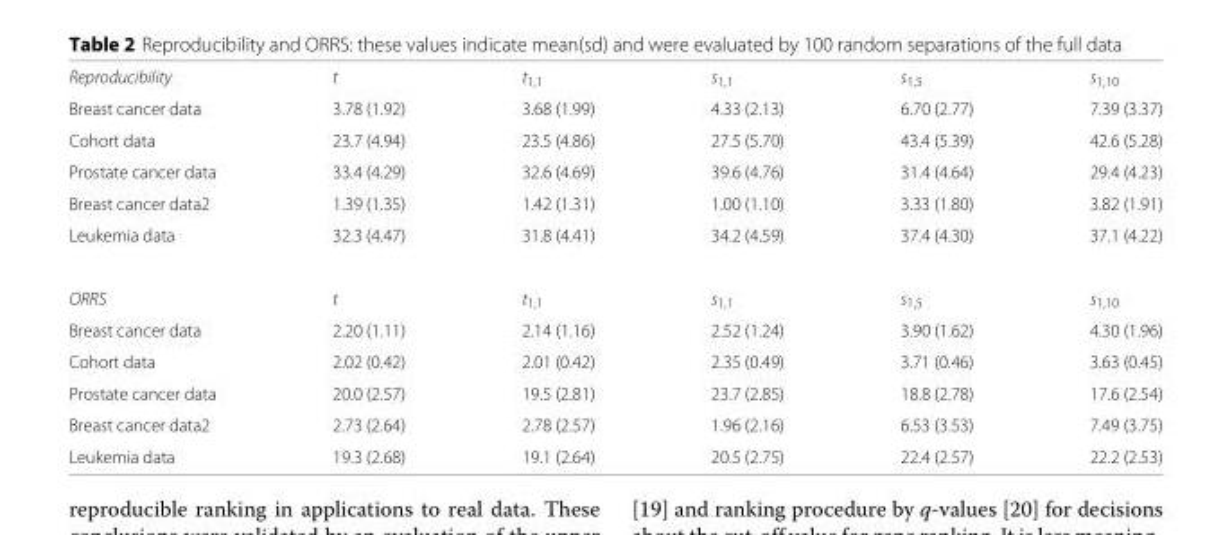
<table><tbody><tr><td>Reproducibility</td><td>t</td><td>t<sub>1,1</sub></td><td>s<sub>1,1</sub></td><td>s<sub>1,5</sub></td><td>s<sub>1,10</sub></td></tr><tr><td>Breast cancer data</td><td>3.78 (1.92)</td><td>3.68 (1.99)</td><td>4.33 (2.13)</td><td>6.70 (2.77)</td><td>7.39 (3.37)</td></tr><tr><td>Cohort data</td><td>23.7 (4.94)</td><td>23.5 (4.86)</td><td>27.5 (5.70)</td><td>43.4 (5.39)</td><td>42.6 (5.28)</td></tr><tr><td>Prostate cancer data</td><td>33.4 (4.29)</td><td>32.6 (4.69)</td><td>39.6 (4.76)</td><td>31.4 (4.64)</td><td>29.4 (4.23)</td></tr><tr><td>Breast cancer data2</td><td>1.39 (1.35)</td><td>1.42 (1.31)</td><td>1.00 (1.10)</td><td>3.33 (1.80)</td><td>3.82 (1.91)</td></tr><tr><td>Leukemia data</td><td>32.3 (4.47)</td><td>31.8 (4.41)</td><td>34.2 (4.59)</td><td>37.4 (4.30)</td><td>37.1 (4.22)</td></tr><tr><td>ORRS</td><td>t</td><td>t<sub>1,1</sub></td><td>s<sub>1,1</sub></td><td>s<sub>1,5</sub></td><td>s<sub>1,10</sub></td></tr><tr><td>Breast cancer data</td><td>2.20 (1.11)</td><td>2.14 (1.16)</td><td>2.52 (1.24)</td><td>3.90 (1.62)</td><td>4.30 (1.96)</td></tr><tr><td>Cohort data</td><td>2.02 (0.42)</td><td>2.01 (0.42)</td><td>2.35 (0.49)</td><td>3.71 (0.46)</td><td>3.63 (0.45)</td></tr><tr><td>Prostate cancer data</td><td>20.0 (2.57)</td><td>19.5 (2.81)</td><td>23.7 (2.85)</td><td>18.8 (2.78)</td><td>17.6 (2.54)</td></tr><tr><td>Breast cancer data2</td><td>2.73 (2.64)</td><td>2.78 (2.57)</td><td>1.96 (2.16)</td><td>6.53 (3.53)</td><td>7.49 (3.75)</td></tr><tr><td>Leukemia data</td><td>19.3 (2.68)</td><td>19.1 (2.64)</td><td>20.5 (2.75)</td><td>22.4 (2.57)</td><td>22.2 (2.53)</td></tr></tbody></table>